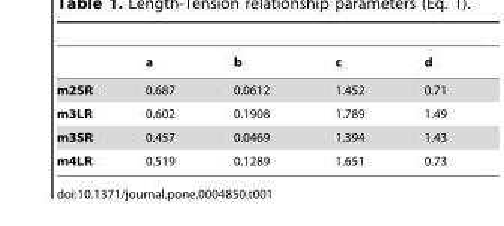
<table><thead><tr><td></td><td>a</td><td>b</td><td>c</td><td>d</td></tr></thead><tbody><tr><td>m2SR</td><td>0.687</td><td>0.0612</td><td>1.452</td><td>0.71</td></tr><tr><td>m3LR</td><td>0.602</td><td>0.1908</td><td>1.789</td><td>1.49</td></tr><tr><td>m3SR</td><td>0.457</td><td>0.0469</td><td>1.394</td><td>1.43</td></tr><tr><td>m4LR</td><td>0.519</td><td>0.1289</td><td>1.651</td><td>0.73</td></tr></tbody></table>